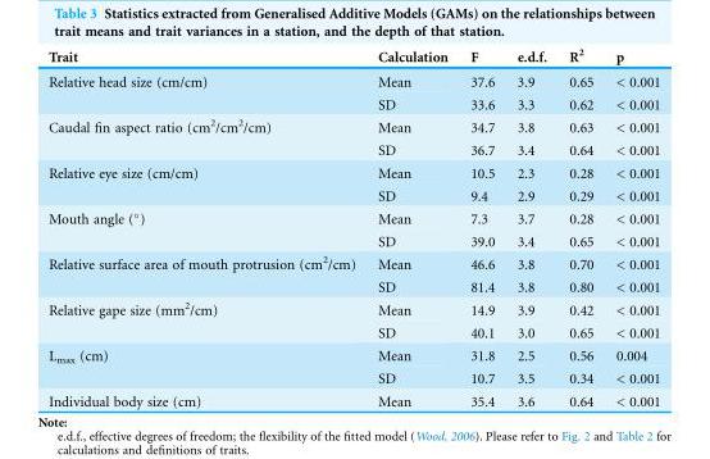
<table><thead><tr><td>Trait</td><td>Calculation</td><td>F</td><td>e.d.f.</td><td>R<sup>2</sup></td><td>p</td></tr></thead><tbody><tr><td rowspan="2">Relative head size (cm/cm)</td><td>Mean</td><td>37.6</td><td>3.9</td><td>0.65</td><td>&lt; 0.001</td></tr><tr><td>SD</td><td>33.6</td><td>3.3</td><td>0.62</td><td>&lt; 0.001</td></tr><tr><td rowspan="2">Caudal fin aspect ratio (cm<sup>2</sup>/cm<sup>2</sup>/cm)</td><td>Mean</td><td>34.7</td><td>3.8</td><td>0.63</td><td>&lt; 0.001</td></tr><tr><td>SD</td><td>36.7</td><td>3.4</td><td>0.64</td><td>&lt; 0.001</td></tr><tr><td rowspan="2">Relative eye size (cm/cm)</td><td>Mean</td><td>10.5</td><td>2.3</td><td>0.28</td><td>&lt; 0.001</td></tr><tr><td>SD</td><td>9.4</td><td>2.9</td><td>0.29</td><td>&lt; 0.001</td></tr><tr><td rowspan="2">Mouth angle (°)</td><td>Mean</td><td>7.3</td><td>3.7</td><td>0.28</td><td>&lt; 0.001</td></tr><tr><td>SD</td><td>39.0</td><td>3.4</td><td>0.65</td><td>&lt; 0.001</td></tr><tr><td rowspan="2">Relative surface area of mouth protrusion (cm<sup>2</sup>/cm)</td><td>Mean</td><td>46.6</td><td>3.8</td><td>0.70</td><td>&lt; 0.001</td></tr><tr><td>SD</td><td>81.4</td><td>3.8</td><td>0.80</td><td>&lt; 0.001</td></tr><tr><td rowspan="2">Relative gape size (mm<sup>2</sup>/cm)</td><td>Mean</td><td>14.9</td><td>3.9</td><td>0.42</td><td>&lt; 0.001</td></tr><tr><td>SD</td><td>40.1</td><td>3.0</td><td>0.65</td><td>&lt; 0.001</td></tr><tr><td rowspan="2">L<sub>max</sub> (cm)</td><td>Mean</td><td>31.8</td><td>2.5</td><td>0.56</td><td>0.004</td></tr><tr><td>SD</td><td>10.7</td><td>3.5</td><td>0.34</td><td>&lt; 0.001</td></tr><tr><td>Individual body size (cm)</td><td>Mean</td><td>35.4</td><td>3.6</td><td>0.64</td><td>&lt; 0.001</td></tr></tbody></table>